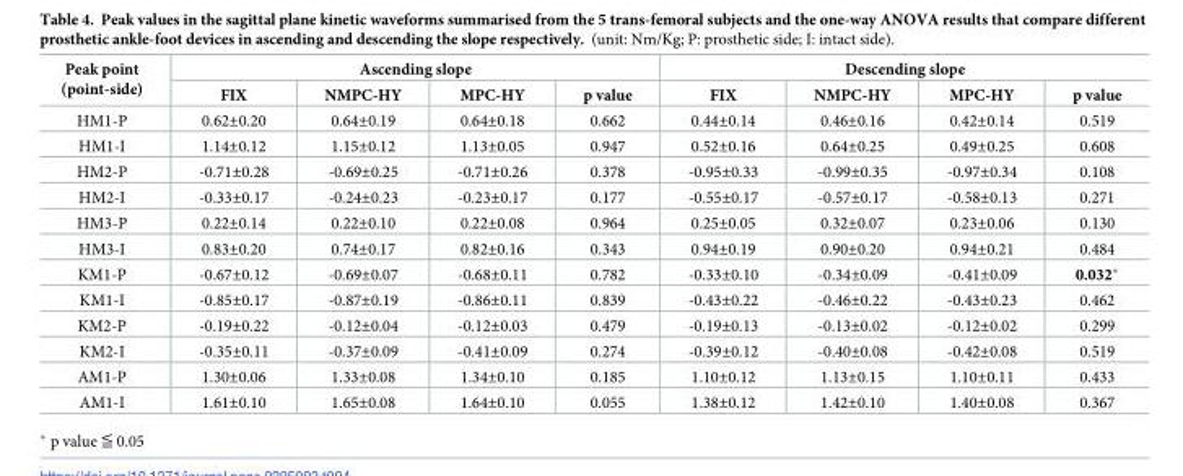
<table><thead><tr><td rowspan="2">Peak point (point-side)</td><td colspan="4">Ascending slope</td><td colspan="4">Descending slope</td></tr><tr><td>FIX</td><td>NMPC-HY</td><td>MPC-HY</td><td>p value</td><td>FIX</td><td>NMPC-HY</td><td>MPC-HY</td><td>p value</td></tr></thead><tbody><tr><td>HM1-P</td><td>0.62±0.20</td><td>0.64±0.19</td><td>0.64±0.18</td><td>0.662</td><td>0.44±0.14</td><td>0.46±0.16</td><td>0.42±0.14</td><td>0.519</td></tr><tr><td>HM1-I</td><td>1.14±0.12</td><td>1.15±0.12</td><td>1.13±0.05</td><td>0.947</td><td>0.52±0.16</td><td>0.64±0.25</td><td>0.49±0.25</td><td>0.608</td></tr><tr><td>HM2-P</td><td>-0.71±0.28</td><td>-0.69±0.25</td><td>-0.71±0.26</td><td>0.378</td><td>-0.95±0.33</td><td>-0.99±0.35</td><td>-0.97±0.34</td><td>0.108</td></tr><tr><td>HM2-I</td><td>-0.33±0.17</td><td>-0.24±0.23</td><td>-0.23±0.17</td><td>0.177</td><td>-0.55±0.17</td><td>-0.57±0.17</td><td>-0.58±0.13</td><td>0.271</td></tr><tr><td>HM3-P</td><td>0.22±0.14</td><td>0.22±0.10</td><td>0.22±0.08</td><td>0.964</td><td>0.25±0.05</td><td>0.32±0.07</td><td>0.23±0.06</td><td>0.130</td></tr><tr><td>HM3-I</td><td>0.83±0.20</td><td>0.74±0.17</td><td>0.82±0.16</td><td>0.343</td><td>0.94±0.19</td><td>0.90±0.20</td><td>0.94±0.21</td><td>0.484</td></tr><tr><td>KM1-P</td><td>-0.67±0.12</td><td>-0.69±0.07</td><td>-0.68±0.11</td><td>0.782</td><td>-0.33±0.10</td><td>-0.34±0.09</td><td>-0.41±0.09</td><td>0.032*</td></tr><tr><td>KM1-I</td><td>-0.85±0.17</td><td>-0.87±0.19</td><td>-0.86±0.11</td><td>0.839</td><td>-0.43±0.22</td><td>-0.46±0.22</td><td>-0.43±0.23</td><td>0.462</td></tr><tr><td>KM2-P</td><td>-0.19±0.22</td><td>-0.12±0.04</td><td>-0.12±0.03</td><td>0.479</td><td>-0.19±0.13</td><td>-0.13±0.02</td><td>-0.12±0.02</td><td>0.299</td></tr><tr><td>KM2-I</td><td>-0.35±0.11</td><td>-0.37±0.09</td><td>-0.41±0.09</td><td>0.274</td><td>-0.39±0.12</td><td>-0.40±0.08</td><td>-0.42±0.08</td><td>0.519</td></tr><tr><td>AM1-P</td><td>1.30±0.06</td><td>1.33±0.08</td><td>1.34±0.10</td><td>0.185</td><td>1.10±0.12</td><td>1.13±0.15</td><td>1.10±0.11</td><td>0.433</td></tr><tr><td>AM1-I</td><td>1.61±0.10</td><td>1.65±0.08</td><td>1.64±0.10</td><td>0.055</td><td>1.38±0.12</td><td>1.42±0.10</td><td>1.40±0.08</td><td>0.367</td></tr></tbody></table>